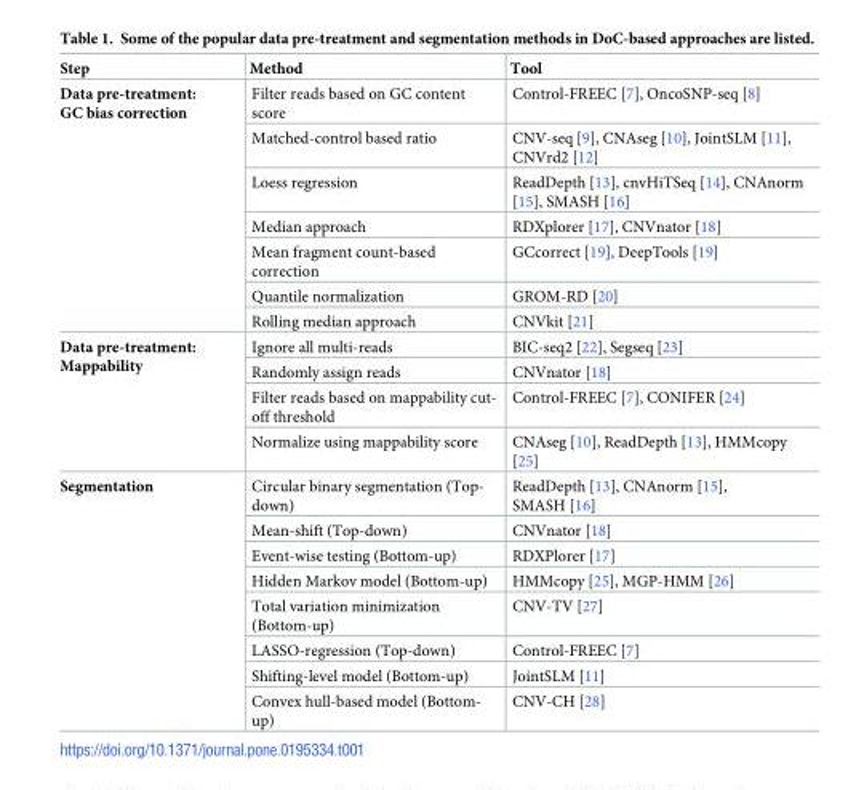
<table><thead><tr><td>Step</td><td>Method</td><td>Tool</td></tr></thead><tbody><tr><td rowspan="7">Data pre-treatment: GC bias correction</td><td>Filter reads based on GC content score</td><td>Control-FREEC [7], OncoSNP-seq [8]</td></tr><tr><td>Matched-control based ratio</td><td>CNV-seq [9], CNAseg [10], JointSLM [11], CNVrd2 [12]</td></tr><tr><td>Loess regression</td><td>ReadDepth [13], cnvHiTSeq [14], CNAnorm [15], SMASH [16]</td></tr><tr><td>Median approach</td><td>RDXplorer [17], CNVnator [18]</td></tr><tr><td>Mean fragment count-based correction</td><td>GCcorrect [19], DeepTools [19]</td></tr><tr><td>Quantile normalization</td><td>GROM-RD [20]</td></tr><tr><td>Rolling median approach</td><td>CNVkit [21]</td></tr><tr><td rowspan="4">Data pre-treatment: Mappability</td><td>Ignore all multi-reads</td><td>BIC-seq2 [22], Segseq [23]</td></tr><tr><td>Randomly assign reads</td><td>CNVnator [18]</td></tr><tr><td>Filter reads based on mappability cut- off threshold</td><td>Control-FREEC [7], CONIFER [24]</td></tr><tr><td>Normalize using mappability score</td><td>CNAseg [10], ReadDepth [13], HMMcopy [25]</td></tr><tr><td rowspan="8">Segmentation</td><td>Circular binary segmentation (Top- down)</td><td>ReadDepth [13], CNAnorm [15], SMASH [16]</td></tr><tr><td>Mean-shift (Top-down)</td><td>CNVnator [18]</td></tr><tr><td>Event-wise testing (Bottom-up)</td><td>RDXPlorer [17]</td></tr><tr><td>Hidden Markov model (Bottom-up)</td><td>HMMcopy [25], MGP-HMM [26]</td></tr><tr><td>Total variation minimization (Bottom-up)</td><td>CNV-TV [27]</td></tr><tr><td>LASSO-regression (Top-down)</td><td>Control-FREEC [7]</td></tr><tr><td>Shifting-level model (Bottom-up)</td><td>JointSLM [11]</td></tr><tr><td>Convex hull-based model (Bottom- up)</td><td>CNV-CH [28]</td></tr></tbody></table>